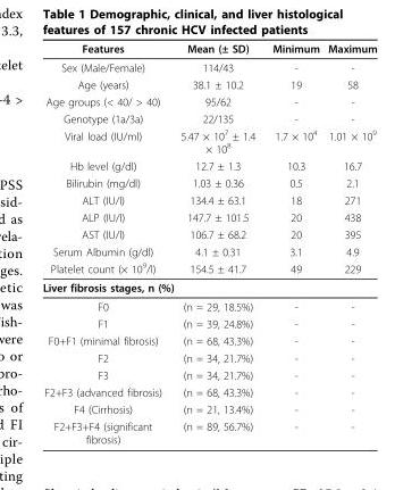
<table><thead><tr><td>Features</td><td>Mean (± SD)</td><td>Minimum</td><td>Maximum</td></tr></thead><tbody><tr><td>Sex (Male/Female)</td><td>114/43</td><td>-</td><td>-</td></tr><tr><td>Age (years)</td><td>38.1 ± 10.2</td><td>19</td><td>58</td></tr><tr><td>Age groups (&lt; 40/ &gt; 40)</td><td>95/62</td><td>-</td><td>-</td></tr><tr><td>Genotype (1a/3a)</td><td>22/135</td><td>-</td><td>-</td></tr><tr><td>Viral load (IU/ml)</td><td>5.47 × 10<sup>7</sup> ± 1.4 × 10<sup>8</sup></td><td>1.7 × 10<sup>4</sup></td><td>1.01 × 10<sup>9</sup></td></tr><tr><td>Hb level (g/dl)</td><td>12.7 ± 1.3</td><td>10.3</td><td>16.7</td></tr><tr><td>Bilirubin (mg/dl)</td><td>1.03 ± 0.36</td><td>0.5</td><td>2.1</td></tr><tr><td>ALT (IU/l)</td><td>134.4 ± 63.1</td><td>18</td><td>271</td></tr><tr><td>ALP (IU/l)</td><td>147.7 ± 101.5</td><td>20</td><td>438</td></tr><tr><td>AST (IU/l)</td><td>106.7 ± 68.2</td><td>20</td><td>395</td></tr><tr><td>Serum Albumin (g/dl)</td><td>4.1 ± 0.31</td><td>3.1</td><td>4.9</td></tr><tr><td>Platelet count (× 10<sup>9</sup>/l)</td><td>154.5 ± 41.7</td><td>49</td><td>229</td></tr><tr><td colspan="4">Liver fibrosis stages, n (%)</td></tr><tr><td>F0</td><td>(n = 29, 18.5%)</td><td>-</td><td>-</td></tr><tr><td>F1</td><td>(n = 39, 24.8%)</td><td>-</td><td>-</td></tr><tr><td>F0+F1 (minimal fibrosis)</td><td>(n = 68, 43.3%)</td><td>-</td><td>-</td></tr><tr><td>F2</td><td>(n = 34, 21.7%)</td><td>-</td><td>-</td></tr><tr><td>F3</td><td>(n = 34, 21.7%)</td><td>-</td><td>-</td></tr><tr><td>F2+F3 (advanced fibrosis)</td><td>(n = 68, 43.3%)</td><td>-</td><td>-</td></tr><tr><td>F4 (Cirrhosis)</td><td>(n = 21, 13.4%)</td><td>-</td><td>-</td></tr><tr><td>F2+F3+F4 (significant fibrosis)</td><td>(n = 89, 56.7%)</td><td>-</td><td>-</td></tr></tbody></table>